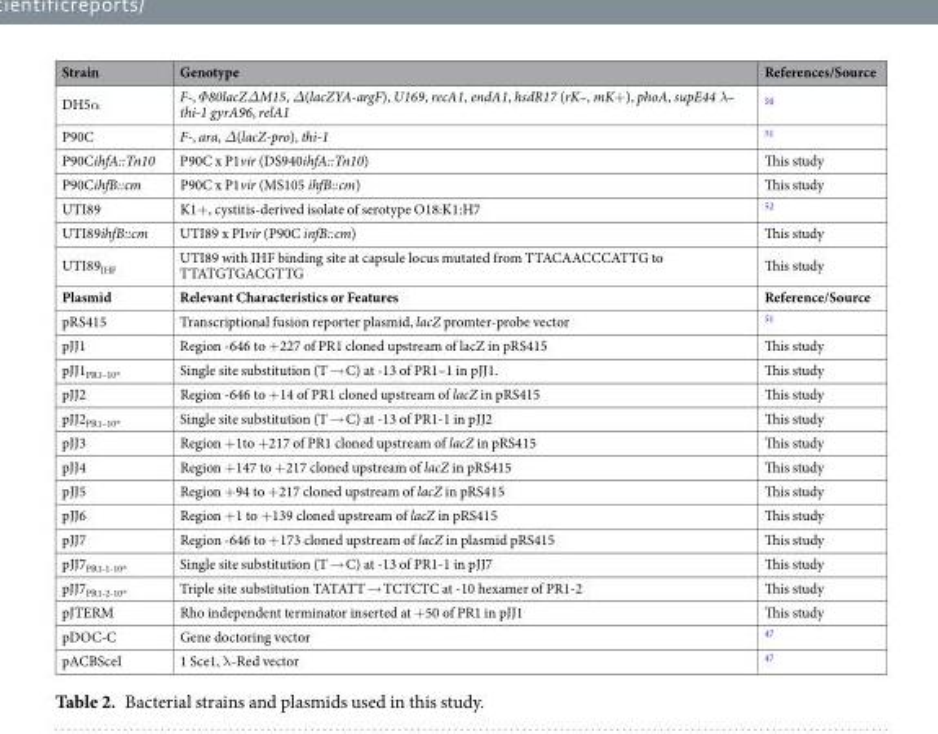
<table><thead><tr><td>Strain</td><td>Genotype</td><td>References/Source</td></tr></thead><tbody><tr><td>DH5α</td><td>F-, Φ80lacZΔM15, Δ(lacZYA-argF), U169, recA1, endA1, hsdR17 (rK–, mK+), phoA, supE44 λ– thi-1 gyrA96, relA1</td><td><sup>50</sup></td></tr><tr><td>P90C</td><td>F-, ara, Δ(lacZ-pro), thi-1</td><td><sup>51</sup></td></tr><tr><td>P90CihfA::Tn10</td><td>P90C x P1vir (DS940ihfA::Tn10)</td><td>This study</td></tr><tr><td>P90CihfB::cm</td><td>P90C x P1vir (MS105 ihfB::cm)</td><td>This study</td></tr><tr><td>UTI89</td><td>K1+, cystitis-derived isolate of serotype O18:K1:H7</td><td><sup>52</sup></td></tr><tr><td>UTI89ihfB::cm</td><td>UTI89 x PIvir (P90C infB::cm)</td><td>This study</td></tr><tr><td>UTI89<sub>IHF</sub></td><td>UTI89 with IHF binding site at capsule locus mutated from TTACAACCCATTG to TTATGTGACGTTG</td><td>This study</td></tr><tr><td>Plasmid</td><td>Relevant Characteristics or Features</td><td>Reference/Source</td></tr><tr><td>pRS415</td><td>Transcriptional fusion reporter plasmid, lacZ promter-probe vector</td><td><sup>51</sup></td></tr><tr><td>pJJ1</td><td>Region -646 to +227 of PR1 cloned upstream of lacZ in pRS415</td><td>This study</td></tr><tr><td>pJJ1<sub>PR1–10*</sub></td><td>Single site substitution (T → C) at -13 of PR1–1 in pJJ1.</td><td>This study</td></tr><tr><td>pJJ2</td><td>Region -646 to +14 of PR1 cloned upstream of lacZ in pRS415</td><td>This study</td></tr><tr><td>pJJ2<sub>PR1–10*</sub></td><td>Single site substitution (T → C) at -13 of PR1-1 in pJJ2</td><td>This study</td></tr><tr><td>pJJ3</td><td>Region +1to +217 of PR1 cloned upstream of lacZ in pRS415</td><td>This study</td></tr><tr><td>pJJ4</td><td>Region +147 to +217 cloned upstream of lacZ in pRS415</td><td>This study</td></tr><tr><td>pJJ5</td><td>Region +94 to +217 cloned upstream of lacZ in pRS415</td><td>This study</td></tr><tr><td>pJJ6</td><td>Region +1 to +139 cloned upstream of lacZ in pRS415</td><td>This study</td></tr><tr><td>pJJ7</td><td>Region -646 to +173 cloned upstream of lacZ in plasmid pRS415</td><td>This study</td></tr><tr><td>pJJ7<sub>PR1-1-10*</sub></td><td>Single site substitution (T → C) at -13 of PR1-1 in pJJ7</td><td>This study</td></tr><tr><td>pJJ7<sub>PR1-2-10*</sub></td><td>Triple site substitution TATATT → TCTCTC at -10 hexamer of PR1-2</td><td>This study</td></tr><tr><td>pJTERM</td><td>Rho independent terminator inserted at +50 of PR1 in pJJ1</td><td>This study</td></tr><tr><td>pDOC-C</td><td>Gene doctoring vector</td><td><sup>47</sup></td></tr><tr><td>pACBSceI</td><td>1 Sce1, λ-Red vector</td><td><sup>47</sup></td></tr></tbody></table>